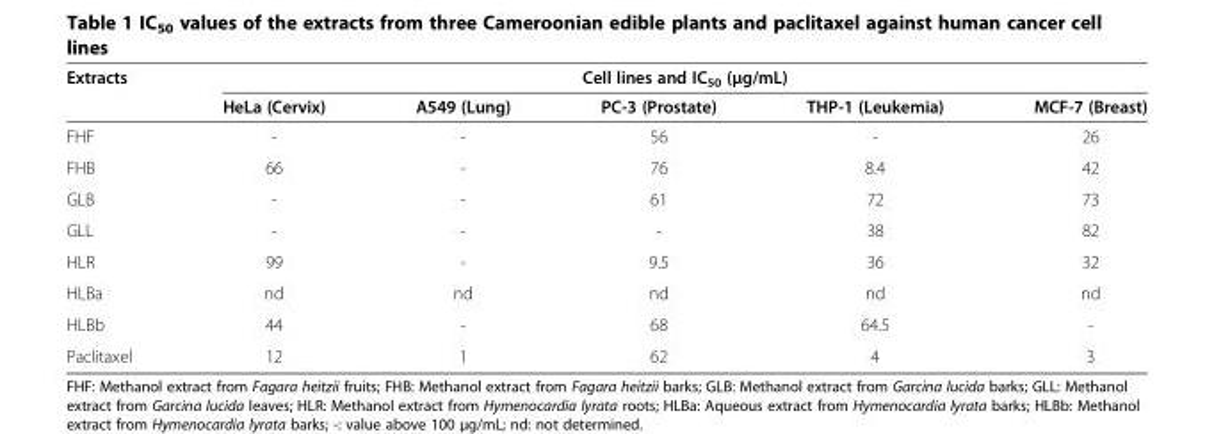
<table><thead><tr><td rowspan="2">Extracts</td><td colspan="5">Cell lines and IC<sub>50</sub> (μg/mL)</td></tr><tr><td>HeLa (Cervix)</td><td>A549 (Lung)</td><td>PC-3 (Prostate)</td><td>THP-1 (Leukemia)</td><td>MCF-7 (Breast)</td></tr></thead><tbody><tr><td>FHF</td><td>-</td><td>-</td><td>56</td><td>-</td><td>26</td></tr><tr><td>FHB</td><td>66</td><td>-</td><td>76</td><td>8.4</td><td>42</td></tr><tr><td>GLB</td><td>-</td><td>-</td><td>61</td><td>72</td><td>73</td></tr><tr><td>GLL</td><td>-</td><td>-</td><td>-</td><td>38</td><td>82</td></tr><tr><td>HLR</td><td>99</td><td>-</td><td>9.5</td><td>36</td><td>32</td></tr><tr><td>HLBa</td><td>nd</td><td>nd</td><td>nd</td><td>nd</td><td>nd</td></tr><tr><td>HLBb</td><td>44</td><td>-</td><td>68</td><td>64.5</td><td>-</td></tr><tr><td>Paclitaxel</td><td>12</td><td>1</td><td>62</td><td>4</td><td>3</td></tr></tbody></table>